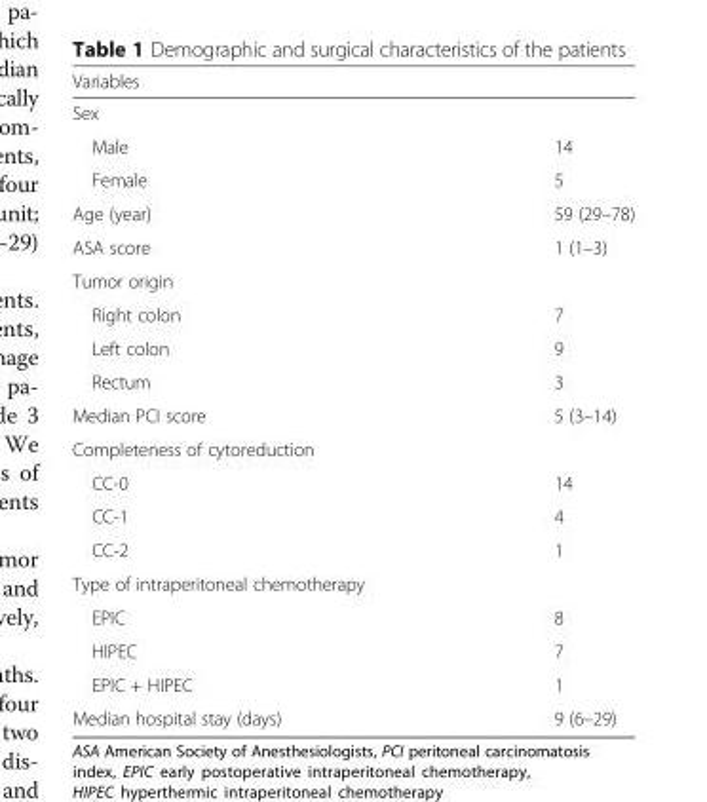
<table><thead><tr><td>Variables</td><td></td></tr></thead><tbody><tr><td colspan="2">Sex</td></tr><tr><td>Male</td><td>14</td></tr><tr><td>Female</td><td>5</td></tr><tr><td>Age (year)</td><td>59 (29–78)</td></tr><tr><td>ASA score</td><td>1 (1–3)</td></tr><tr><td colspan="2">Tumor origin</td></tr><tr><td>Right colon</td><td>7</td></tr><tr><td>Left colon</td><td>9</td></tr><tr><td>Rectum</td><td>3</td></tr><tr><td>Median PCI score</td><td>5 (3–14)</td></tr><tr><td colspan="2">Completeness of cytoreduction</td></tr><tr><td>CC-0</td><td>14</td></tr><tr><td>CC-1</td><td>4</td></tr><tr><td>CC-2</td><td>1</td></tr><tr><td colspan="2">Type of intraperitoneal chemotherapy</td></tr><tr><td>EPIC</td><td>8</td></tr><tr><td>HIPEC</td><td>7</td></tr><tr><td>EPIC + HIPEC</td><td>1</td></tr><tr><td>Median hospital stay (days)</td><td>9 (6–29)</td></tr></tbody></table>